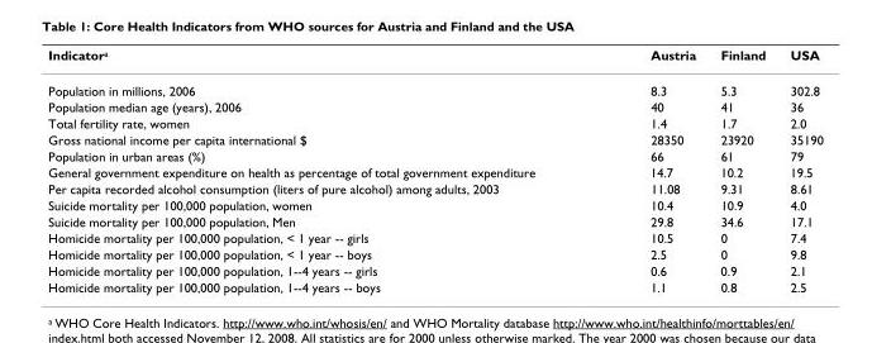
<table><thead><tr><td>Indicator<sup>a</sup></td><td>Austria</td><td>Finland</td><td>USA</td></tr></thead><tbody><tr><td>Population in millions, 2006</td><td>8.3</td><td>5.3</td><td>302.8</td></tr><tr><td>Population median age (years), 2006</td><td>40</td><td>41</td><td>36</td></tr><tr><td>Total fertility rate, women</td><td>1.4</td><td>1.7</td><td>2.0</td></tr><tr><td>Gross national income per capita international $</td><td>28350</td><td>23920</td><td>35190</td></tr><tr><td>Population in urban areas (%)</td><td>66</td><td>61</td><td>79</td></tr><tr><td>General government expenditure on health as percentage of total government expenditure</td><td>14.7</td><td>10.2</td><td>19.5</td></tr><tr><td>Per capita recorded alcohol consumption (liters of pure alcohol) among adults, 2003</td><td>11.08</td><td>9.31</td><td>8.61</td></tr><tr><td>Suicide mortality per 100,000 population, women</td><td>10.4</td><td>10.9</td><td>4.0</td></tr><tr><td>Suicide mortality per 100,000 population, Men</td><td>29.8</td><td>34.6</td><td>17.1</td></tr><tr><td>Homicide mortality per 100,000 population, &lt; 1 year -- girls</td><td>10.5</td><td>0</td><td>7.4</td></tr><tr><td>Homicide mortality per 100,000 population, &lt; 1 year -- boys</td><td>2.5</td><td>0</td><td>9.8</td></tr><tr><td>Homicide mortality per 100,000 population, 1--4 years -- girls</td><td>0.6</td><td>0.9</td><td>2.1</td></tr><tr><td>Homicide mortality per 100,000 population, 1--4 years -- boys</td><td>1.1</td><td>0.8</td><td>2.5</td></tr></tbody></table>